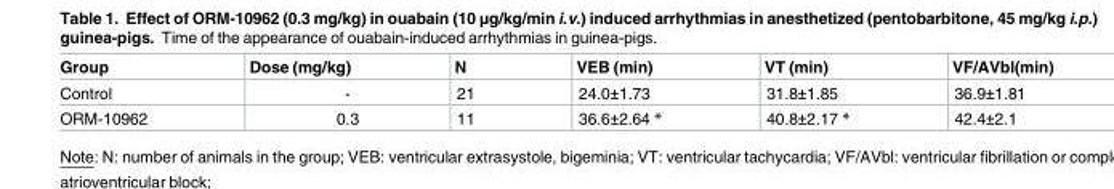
<table><thead><tr><td>Group</td><td>Dose (mg/kg)</td><td>N</td><td>VEB (min)</td><td>VT (min)</td><td>VF/AVbl(min)</td></tr></thead><tbody><tr><td>Control</td><td>-</td><td>21</td><td>24.0±1.73</td><td>31.8±1.85</td><td>36.9±1.81</td></tr><tr><td>ORM-10962</td><td>0.3</td><td>11</td><td>36.6±2.64 *</td><td>40.8±2.17 *</td><td>42.4±2.1</td></tr></tbody></table>